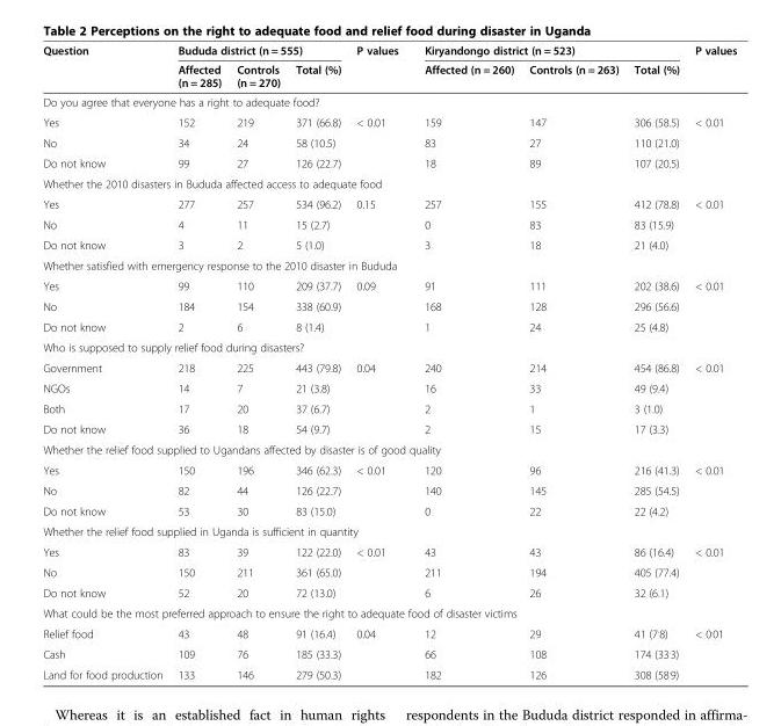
<table><thead><tr><td rowspan="2">Question</td><td colspan="3">Bududa district (n = 555)</td><td rowspan="2">P values</td><td colspan="3">Kiryandongo district (n = 523)</td><td rowspan="2">P values</td></tr><tr><td>Affected (n = 285)</td><td>Controls (n = 270)</td><td>Total (%)</td><td>Affected (n = 260)</td><td>Controls (n = 263)</td><td>Total (%)</td></tr></thead><tbody><tr><td colspan="9">Do you agree that everyone has a right to adequate food?</td></tr><tr><td>Yes</td><td>152</td><td>219</td><td>371 (66.8)</td><td rowspan="3">&lt; 0.01</td><td>159</td><td>147</td><td>306 (58.5)</td><td rowspan="3">&lt; 0.01</td></tr><tr><td>No</td><td>34</td><td>24</td><td>58 (10.5)</td><td>83</td><td>27</td><td>110 (21.0)</td></tr><tr><td>Do not know</td><td>99</td><td>27</td><td>126 (22.7)</td><td>18</td><td>89</td><td>107 (20.5)</td></tr><tr><td colspan="9">Whether the 2010 disasters in Bududa affected access to adequate food</td></tr><tr><td>Yes</td><td>277</td><td>257</td><td>534 (96.2)</td><td rowspan="3">0.15</td><td>257</td><td>155</td><td>412 (78.8)</td><td rowspan="3">&lt; 0.01</td></tr><tr><td>No</td><td>4</td><td>11</td><td>15 (2.7)</td><td>0</td><td>83</td><td>83 (15.9)</td></tr><tr><td>Do not know</td><td>3</td><td>2</td><td>5 (1.0)</td><td>3</td><td>18</td><td>21 (4.0)</td></tr><tr><td colspan="9">Whether satisfied with emergency response to the 2010 disaster in Bududa</td></tr><tr><td>Yes</td><td>99</td><td>110</td><td>209 (37.7)</td><td rowspan="3">0.09</td><td>91</td><td>111</td><td>202 (38.6)</td><td rowspan="3">&lt; 0.01</td></tr><tr><td>No</td><td>184</td><td>154</td><td>338 (60.9)</td><td>168</td><td>128</td><td>296 (56.6)</td></tr><tr><td>Do not know</td><td>2</td><td>6</td><td>8 (1.4)</td><td>1</td><td>24</td><td>25 (4.8)</td></tr><tr><td colspan="9">Who is supposed to supply relief food during disasters?</td></tr><tr><td>Government</td><td>218</td><td>225</td><td>443 (79.8)</td><td rowspan="4">0.04</td><td>240</td><td>214</td><td>454 (86.8)</td><td rowspan="4">&lt; 0.01</td></tr><tr><td>NGOs</td><td>14</td><td>7</td><td>21 (3.8)</td><td>16</td><td>33</td><td>49 (9.4)</td></tr><tr><td>Both</td><td>17</td><td>20</td><td>37 (6.7)</td><td>2</td><td>1</td><td>3 (1.0)</td></tr><tr><td>Do not know</td><td>36</td><td>18</td><td>54 (9.7)</td><td>2</td><td>15</td><td>17 (3.3)</td></tr><tr><td colspan="9">Whether the relief food supplied to Ugandans affected by disaster is of good quality</td></tr><tr><td>Yes</td><td>150</td><td>196</td><td>346 (62.3)</td><td rowspan="3">&lt; 0.01</td><td>120</td><td>96</td><td>216 (41.3)</td><td rowspan="3">&lt; 0.01</td></tr><tr><td>No</td><td>82</td><td>44</td><td>126 (22.7)</td><td>140</td><td>145</td><td>285 (54.5)</td></tr><tr><td>Do not know</td><td>53</td><td>30</td><td>83 (15.0)</td><td>0</td><td>22</td><td>22 (4.2)</td></tr><tr><td colspan="9">Whether the relief food supplied in Uganda is sufficient in quantity</td></tr><tr><td>Yes</td><td>83</td><td>39</td><td>122 (22.0)</td><td rowspan="3">&lt; 0.01</td><td>43</td><td>43</td><td>86 (16.4)</td><td rowspan="3">&lt; 0.01</td></tr><tr><td>No</td><td>150</td><td>211</td><td>361 (65.0)</td><td>211</td><td>194</td><td>405 (77.4)</td></tr><tr><td>Do not know</td><td>52</td><td>20</td><td>72 (13.0)</td><td>6</td><td>26</td><td>32 (6.1)</td></tr><tr><td colspan="9">What could be the most preferred approach to ensure the right to adequate food of disaster victims</td></tr><tr><td>Relief food</td><td>43</td><td>48</td><td>91 (16.4)</td><td rowspan="3">0.04</td><td>12</td><td>29</td><td>41 (7<sup>.</sup>8)</td><td rowspan="3">&lt; 0<sup>.</sup>01</td></tr><tr><td>Cash</td><td>109</td><td>76</td><td>185 (33.3)</td><td>66</td><td>108</td><td>174 (33<sup>.</sup>3)</td></tr><tr><td>Land for food production</td><td>133</td><td>146</td><td>279 (50.3)</td><td>182</td><td>126</td><td>308 (58<sup>.</sup>9)</td></tr></tbody></table>